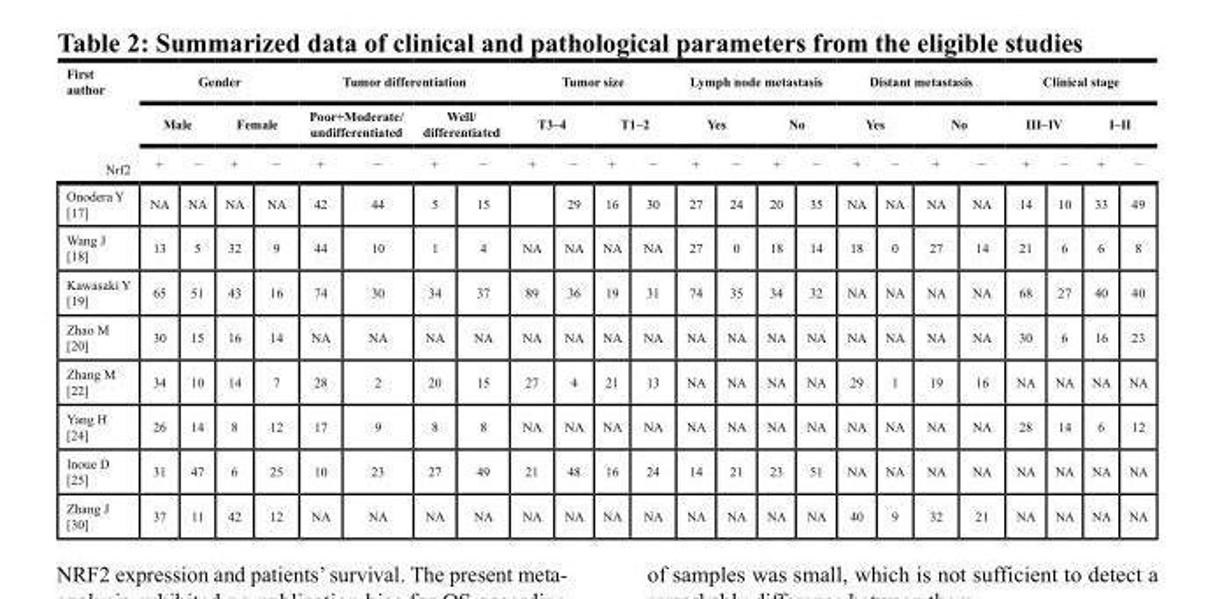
<table><thead><tr><td rowspan="3">First author Nrf2</td><td colspan="4">Gender</td><td colspan="4">Tumor differentiation</td><td colspan="4">Tumor size</td><td colspan="4">Lymph node metastasis</td><td colspan="4">Distant metastasis</td><td colspan="4">Clinical stage</td></tr><tr><td colspan="2">Male</td><td colspan="2">Female</td><td colspan="2">Poor+Moderate/ undifferentiated</td><td colspan="2">Well/ differentiated</td><td colspan="2">T3–4</td><td colspan="2">T1–2</td><td colspan="2">Yes</td><td colspan="2">No</td><td colspan="2">Yes</td><td colspan="2">No</td><td colspan="2">III–IV</td><td colspan="2">I–II</td></tr><tr><td>+</td><td>−</td><td>+</td><td>−</td><td>+</td><td>−</td><td>+</td><td>−</td><td>+</td><td>−</td><td>+</td><td>−</td><td>+</td><td>−</td><td>+</td><td>−</td><td>+</td><td>−</td><td>+</td><td>−</td><td>+</td><td>−</td><td>+</td><td>−</td></tr></thead><tbody><tr><td>Onodera Y [17]</td><td>NA</td><td>NA</td><td>NA</td><td>NA</td><td>42</td><td>44</td><td>5</td><td>15</td><td></td><td>29</td><td>16</td><td>30</td><td>27</td><td>24</td><td>20</td><td>35</td><td>NA</td><td>NA</td><td>NA</td><td>NA</td><td>14</td><td>10</td><td>33</td><td>49</td></tr><tr><td>Wang J [18]</td><td>13</td><td>5</td><td>32</td><td>9</td><td>44</td><td>10</td><td>1</td><td>4</td><td>NA</td><td>NA</td><td>NA</td><td>NA</td><td>27</td><td>0</td><td>18</td><td>14</td><td>18</td><td>0</td><td>27</td><td>14</td><td>21</td><td>6</td><td>6</td><td>8</td></tr><tr><td>Kawasaki Y [19]</td><td>65</td><td>51</td><td>43</td><td>16</td><td>74</td><td>30</td><td>34</td><td>37</td><td>89</td><td>36</td><td>19</td><td>31</td><td>74</td><td>35</td><td>34</td><td>32</td><td>NA</td><td>NA</td><td>NA</td><td>NA</td><td>68</td><td>27</td><td>40</td><td>40</td></tr><tr><td>Zhao M [20]</td><td>30</td><td>15</td><td>16</td><td>14</td><td>NA</td><td>NA</td><td>NA</td><td>NA</td><td>NA</td><td>NA</td><td>NA</td><td>NA</td><td>NA</td><td>NA</td><td>NA</td><td>NA</td><td>NA</td><td>NA</td><td>NA</td><td>NA</td><td>30</td><td>6</td><td>16</td><td>23</td></tr><tr><td>Zhang M [22]</td><td>34</td><td>10</td><td>14</td><td>7</td><td>28</td><td>2</td><td>20</td><td>15</td><td>27</td><td>4</td><td>21</td><td>13</td><td>NA</td><td>NA</td><td>NA</td><td>NA</td><td>29</td><td>1</td><td>19</td><td>16</td><td>NA</td><td>NA</td><td>NA</td><td>NA</td></tr><tr><td>Yang H [24]</td><td>26</td><td>14</td><td>8</td><td>12</td><td>17</td><td>9</td><td>8</td><td>8</td><td>NA</td><td>NA</td><td>NA</td><td>NA</td><td>NA</td><td>NA</td><td>NA</td><td>NA</td><td>NA</td><td>NA</td><td>NA</td><td>NA</td><td>28</td><td>14</td><td>6</td><td>12</td></tr><tr><td>Inoue D [25]</td><td>31</td><td>47</td><td>6</td><td>25</td><td>10</td><td>23</td><td>27</td><td>49</td><td>21</td><td>48</td><td>16</td><td>24</td><td>14</td><td>21</td><td>23</td><td>51</td><td>NA</td><td>NA</td><td>NA</td><td>NA</td><td>NA</td><td>NA</td><td>NA</td><td>NA</td></tr><tr><td>Zhang J [30]</td><td>37</td><td>11</td><td>42</td><td>12</td><td>NA</td><td>NA</td><td>NA</td><td>NA</td><td>NA</td><td>NA</td><td>NA</td><td>NA</td><td>NA</td><td>NA</td><td>NA</td><td>NA</td><td>40</td><td>9</td><td>32</td><td>21</td><td>NA</td><td>NA</td><td>NA</td><td>NA</td></tr></tbody></table>